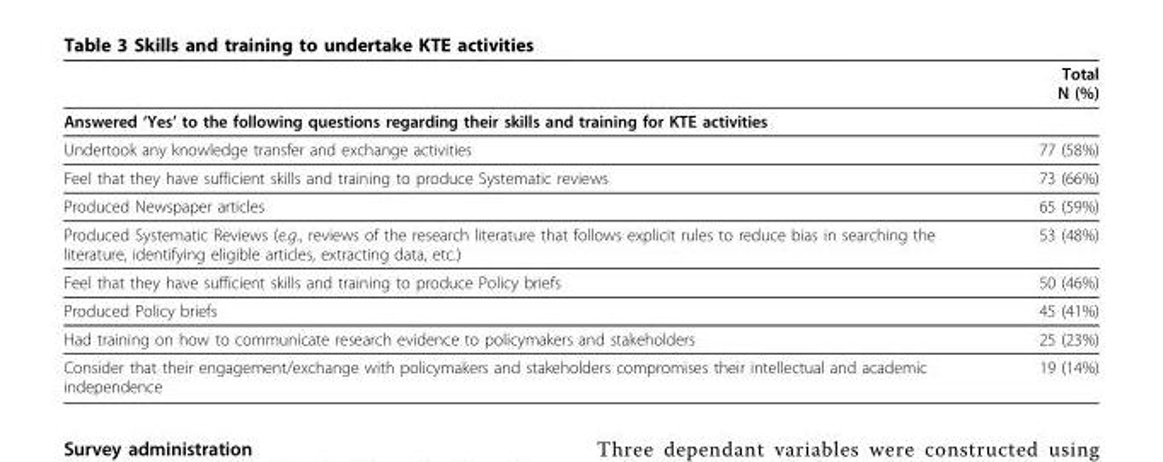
<table><thead><tr><td></td><td>Total N (%)</td></tr></thead><tbody><tr><td colspan="2">Answered ‘Yes’ to the following questions regarding their skills and training for KTE activities</td></tr><tr><td>Undertook any knowledge transfer and exchange activities</td><td>77 (58%)</td></tr><tr><td>Feel that they have sufficient skills and training to produce Systematic reviews</td><td>73 (66%)</td></tr><tr><td>Produced Newspaper articles</td><td>65 (59%)</td></tr><tr><td>Produced Systematic Reviews (e.g., reviews of the research literature that follows explicit rules to reduce bias in searching the literature, identifying eligible articles, extracting data, etc.)</td><td>53 (48%)</td></tr><tr><td>Feel that they have sufficient skills and training to produce Policy briefs</td><td>50 (46%)</td></tr><tr><td>Produced Policy briefs</td><td>45 (41%)</td></tr><tr><td>Had training on how to communicate research evidence to policymakers and stakeholders</td><td>25 (23%)</td></tr><tr><td>Consider that their engagement/exchange with policymakers and stakeholders compromises their intellectual and academic independence</td><td>19 (14%)</td></tr></tbody></table>